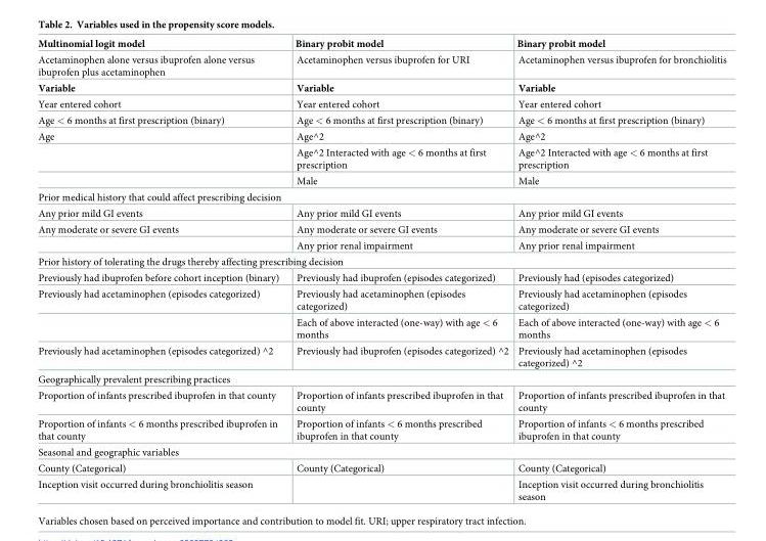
<table><thead><tr><td>Multinomial logit model</td><td>Binary probit model</td><td>Binary probit model</td></tr></thead><tbody><tr><td>Acetaminophen alone versus ibuprofen alone versus ibuprofen plus acetaminophen</td><td>Acetaminophen versus ibuprofen for URI</td><td>Acetaminophen versus ibuprofen for bronchiolitis</td></tr><tr><td>Variable</td><td>Variable</td><td>Variable</td></tr><tr><td>Year entered cohort</td><td>Year entered cohort</td><td>Year entered cohort</td></tr><tr><td>Age &lt; 6 months at first prescription (binary)</td><td>Age &lt; 6 months at first prescription (binary)</td><td>Age &lt; 6 months at first prescription (binary)</td></tr><tr><td rowspan="3">Age</td><td>Age^2</td><td>Age^2</td></tr><tr><td>Age^2 Interacted with age &lt; 6 months at first prescription</td><td>Age^2 Interacted with age &lt; 6 months at first prescription</td></tr><tr><td>Male</td><td>Male</td></tr><tr><td colspan="3">Prior medical history that could affect prescribing decision</td></tr><tr><td>Any prior mild GI events</td><td>Any prior mild GI events</td><td>Any prior mild GI events</td></tr><tr><td rowspan="2">Any moderate or severe GI events</td><td>Any moderate or severe GI events</td><td>Any moderate or severe GI events</td></tr><tr><td>Any prior renal impairment</td><td>Any prior renal impairment</td></tr><tr><td colspan="3">Prior history of tolerating the drugs thereby affecting prescribing decision</td></tr><tr><td>Previously had ibuprofen before cohort inception (binary)</td><td>Previously had ibuprofen (episodes categorized)</td><td>Previously had (episodes categorized)</td></tr><tr><td rowspan="2">Previously had acetaminophen (episodes categorized)</td><td>Previously had acetaminophen (episodes categorized)</td><td>Previously had acetaminophen (episodes categorized)</td></tr><tr><td>Each of above interacted (one-way) with age &lt; 6 months</td><td>Each of above interacted (one-way) with age &lt; 6 months</td></tr><tr><td>Previously had acetaminophen (episodes categorized) ^2</td><td>Previously had ibuprofen (episodes categorized) ^2</td><td>Previously had acetaminophen (episodes categorized) ^2</td></tr><tr><td colspan="3">Geographically prevalent prescribing practices</td></tr><tr><td>Proportion of infants prescribed ibuprofen in that county</td><td>Proportion of infants prescribed ibuprofen in that county</td><td>Proportion of infants prescribed ibuprofen in that county</td></tr><tr><td>Proportion of infants &lt; 6 months prescribed ibuprofen in that county</td><td>Proportion of infants &lt; 6 months prescribed ibuprofen in that county</td><td>Proportion of infants &lt; 6 months prescribed ibuprofen in that county</td></tr><tr><td colspan="3">Seasonal and geographic variables</td></tr><tr><td>County (Categorical)</td><td>County (Categorical)</td><td>County (Categorical)</td></tr><tr><td>Inception visit occurred during bronchiolitis season</td><td></td><td>Inception visit occurred during bronchiolitis season</td></tr></tbody></table>